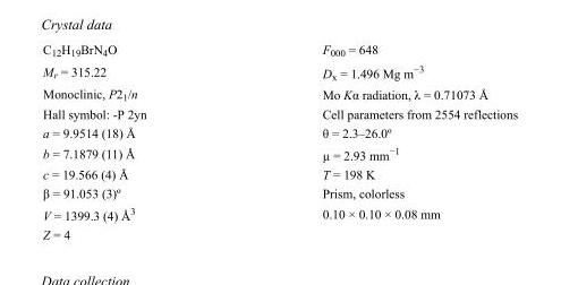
<table><tbody><tr><td>C<sub>12</sub>H<sub>19</sub>BrN<sub>4</sub>O</td><td>F000 = 648</td></tr><tr><td>M<sub>r</sub> = 315.22</td><td>D<sub>x</sub> = 1.496 Mg m<sup>−3</sup></td></tr><tr><td>Monoclinic, P2<sub>1</sub>/n</td><td>Mo Kα radiation, λ = 0.71073 Å</td></tr><tr><td>Hall symbol: -P 2yn</td><td>Cell parameters from 2554 reflections</td></tr><tr><td>a = 9.9514 (18) Å</td><td>θ = 2.3–26.0º</td></tr><tr><td>b = 7.1879 (11) Å</td><td>µ = 2.93 mm<sup>−1</sup></td></tr><tr><td>c = 19.566 (4) Å</td><td>T = 198 K</td></tr><tr><td>β = 91.053 (3)º</td><td>Prism, colorless</td></tr><tr><td>V = 1399.3 (4) Å<sup>3</sup></td><td>0.10 × 0.10 × 0.08 mm</td></tr><tr><td>Z = 4</td><td></td></tr></tbody></table>